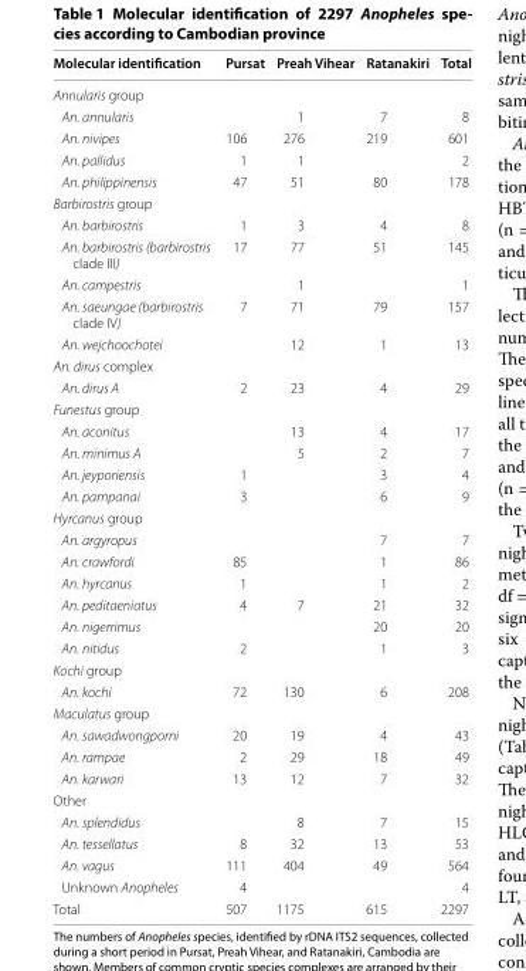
<table><thead><tr><td>Molecular identification</td><td>Pursat</td><td>Preah Vihear</td><td>Ratanakiri</td><td>Total</td></tr></thead><tbody><tr><td colspan="5">Annularis group</td></tr><tr><td>An. annularis</td><td></td><td>1</td><td>7</td><td>8</td></tr><tr><td>An. nivipes</td><td>106</td><td>276</td><td>219</td><td>601</td></tr><tr><td>An. pallidus</td><td>1</td><td>1</td><td></td><td>2</td></tr><tr><td>An. philippinensis</td><td>47</td><td>51</td><td>80</td><td>178</td></tr><tr><td colspan="5">Barbirostris group</td></tr><tr><td>An. barbirostris</td><td>1</td><td>3</td><td>4</td><td>8</td></tr><tr><td>An. barbirostris (barbirostris clade III)</td><td>17</td><td>77</td><td>51</td><td>145</td></tr><tr><td>An. campestris</td><td></td><td>1</td><td></td><td>1</td></tr><tr><td>An. saeungae (barbirostris clade IV)</td><td>7</td><td>71</td><td>79</td><td>157</td></tr><tr><td>An. wejchoochotei</td><td></td><td>12</td><td>1</td><td>13</td></tr><tr><td colspan="5">An. dirus complex</td></tr><tr><td>An. dirus A</td><td>2</td><td>23</td><td>4</td><td>29</td></tr><tr><td colspan="5">Funestus group</td></tr><tr><td>An. aconitus</td><td></td><td>13</td><td>4</td><td>17</td></tr><tr><td>An. minimus A</td><td></td><td>5</td><td>2</td><td>7</td></tr><tr><td>An. jeyporiensis</td><td>1</td><td></td><td>3</td><td>4</td></tr><tr><td>An. pampanai</td><td>3</td><td></td><td>6</td><td>9</td></tr><tr><td colspan="5">Hyrcanus group</td></tr><tr><td>An. argyropus</td><td></td><td></td><td>7</td><td>7</td></tr><tr><td>An. crawfordi</td><td>85</td><td></td><td>1</td><td>86</td></tr><tr><td>An. hyrcanus</td><td>1</td><td></td><td>1</td><td>2</td></tr><tr><td>An. peditaeniatus</td><td>4</td><td>7</td><td>21</td><td>32</td></tr><tr><td>An. nigerrimus</td><td></td><td></td><td>20</td><td>20</td></tr><tr><td>An. nitidus</td><td>2</td><td></td><td>1</td><td>3</td></tr><tr><td colspan="5">Kochi group</td></tr><tr><td>An. kochi</td><td>72</td><td>130</td><td>6</td><td>208</td></tr><tr><td colspan="5">Maculatus group</td></tr><tr><td>An. sawadwongporni</td><td>20</td><td>19</td><td>4</td><td>43</td></tr><tr><td>An. rampae</td><td>2</td><td>29</td><td>18</td><td>49</td></tr><tr><td>An. karwari</td><td>13</td><td>12</td><td>7</td><td>32</td></tr><tr><td colspan="5">Other</td></tr><tr><td>An. splendidus</td><td></td><td>8</td><td>7</td><td>15</td></tr><tr><td>An. tessellatus</td><td>8</td><td>32</td><td>13</td><td>53</td></tr><tr><td>An. vagus</td><td>111</td><td>404</td><td>49</td><td>564</td></tr><tr><td>Unknown Anopheles</td><td>4</td><td></td><td></td><td>4</td></tr><tr><td>Total</td><td>507</td><td>1175</td><td>615</td><td>2297</td></tr></tbody></table>